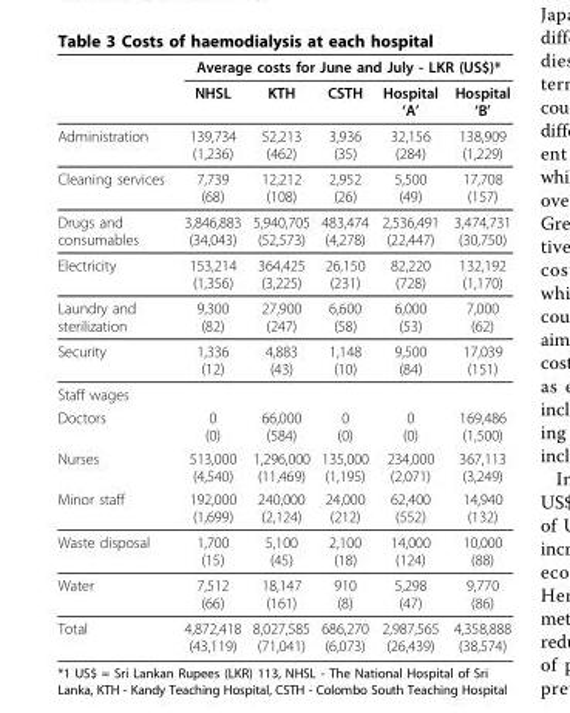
<table><thead><tr><td rowspan="2"></td><td colspan="5">Average costs for June and July - LKR (US$)*</td></tr><tr><td>NHSL</td><td>KTH</td><td>CSTH</td><td>Hospital ‘A’</td><td>Hospital ‘B’</td></tr></thead><tbody><tr><td>Administration</td><td>139,734 (1,236)</td><td>52,213 (462)</td><td>3,936 (35)</td><td>32,156 (284)</td><td>138,909 (1,229)</td></tr><tr><td>Cleaning services</td><td>7,739 (68)</td><td>12,212 (108)</td><td>2,952 (26)</td><td>5,500 (49)</td><td>17,708 (157)</td></tr><tr><td>Drugs and consumables</td><td>3,846,883 (34,043)</td><td>5,940,705 (52,573)</td><td>483,474 (4,278)</td><td>2,536,491 (22,447)</td><td>3,474,731 (30,750)</td></tr><tr><td>Electricity</td><td>153,214 (1,356)</td><td>364,425 (3,225)</td><td>26,150 (231)</td><td>82,220 (728)</td><td>132,192 (1,170)</td></tr><tr><td>Laundry and sterilization</td><td>9,300 (82)</td><td>27,900 (247)</td><td>6,600 (58)</td><td>6,000 (53)</td><td>7,000 (62)</td></tr><tr><td>Security</td><td>1,336 (12)</td><td>4,883 (43)</td><td>1,148 (10)</td><td>9,500 (84)</td><td>17,039 (151)</td></tr><tr><td colspan="6">Staff wages</td></tr><tr><td>Doctors</td><td>0 (0)</td><td>66,000 (584)</td><td>0 (0)</td><td>0 (0)</td><td>169,486 (1,500)</td></tr><tr><td>Nurses</td><td>513,000 (4,540)</td><td>1,296,000 (11,469)</td><td>135,000 (1,195)</td><td>234,000 (2,071)</td><td>367,113 (3,249)</td></tr><tr><td>Minor staff</td><td>192,000 (1,699)</td><td>240,000 (2,124)</td><td>24,000 (212)</td><td>62,400 (552)</td><td>14,940 (132)</td></tr><tr><td>Waste disposal</td><td>1,700 (15)</td><td>5,100 (45)</td><td>2,100 (18)</td><td>14,000 (124)</td><td>10,000 (88)</td></tr><tr><td>Water</td><td>7,512 (66)</td><td>18,147 (161)</td><td>910 (8)</td><td>5,298 (47)</td><td>9,770 (86)</td></tr><tr><td>Total</td><td>4,872,418 (43,119)</td><td>8,027,585 (71,041)</td><td>686,270 (6,073)</td><td>2,987,565 (26,439)</td><td>4,358,888 (38,574)</td></tr></tbody></table>